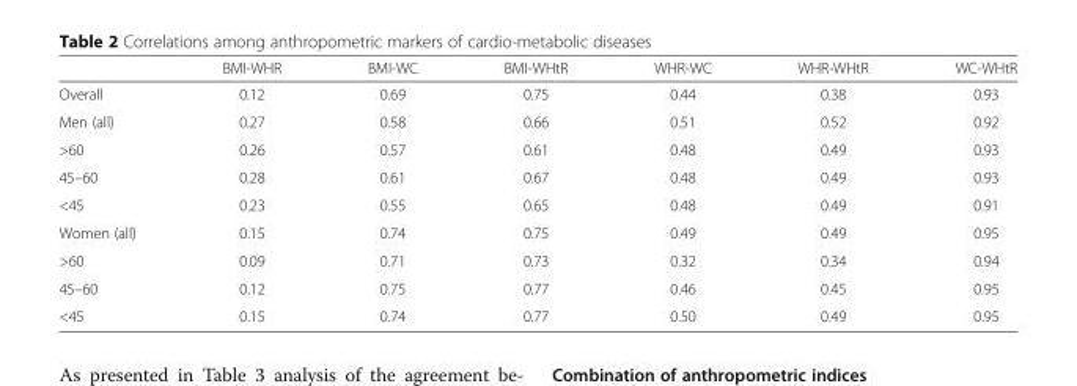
<table><thead><tr><td></td><td>BMI-WHR</td><td>BMI-WC</td><td>BMI-WHtR</td><td>WHR-WC</td><td>WHR-WHtR</td><td>WC-WHtR</td></tr></thead><tbody><tr><td>Overall</td><td>0.12</td><td>0.69</td><td>0.75</td><td>0.44</td><td>0.38</td><td>0.93</td></tr><tr><td>Men (all)</td><td>0.27</td><td>0.58</td><td>0.66</td><td>0.51</td><td>0.52</td><td>0.92</td></tr><tr><td>&gt;60</td><td>0.26</td><td>0.57</td><td>0.61</td><td>0.48</td><td>0.49</td><td>0.93</td></tr><tr><td>45–60</td><td>0.28</td><td>0.61</td><td>0.67</td><td>0.48</td><td>0.49</td><td>0.93</td></tr><tr><td>&lt;45</td><td>0.23</td><td>0.55</td><td>0.65</td><td>0.48</td><td>0.49</td><td>0.91</td></tr><tr><td>Women (all)</td><td>0.15</td><td>0.74</td><td>0.75</td><td>0.49</td><td>0.49</td><td>0.95</td></tr><tr><td>&gt;60</td><td>0.09</td><td>0.71</td><td>0.73</td><td>0.32</td><td>0.34</td><td>0.94</td></tr><tr><td>45–60</td><td>0.12</td><td>0.75</td><td>0.77</td><td>0.46</td><td>0.45</td><td>0.95</td></tr><tr><td>&lt;45</td><td>0.15</td><td>0.74</td><td>0.77</td><td>0.50</td><td>0.49</td><td>0.95</td></tr></tbody></table>